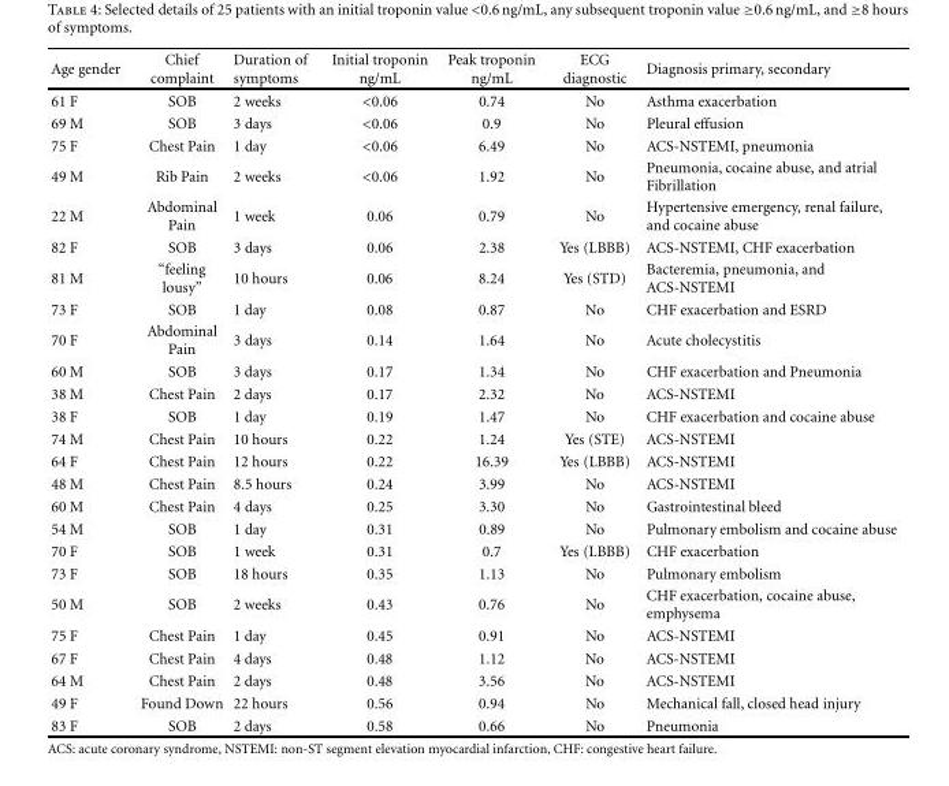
<table><thead><tr><td>Age gender</td><td>Chief complaint</td><td>Duration of symptoms</td><td>Initial troponin ng/mL</td><td>Peak troponin ng/mL</td><td>ECG diagnostic</td><td>Diagnosis primary, secondary</td></tr></thead><tbody><tr><td>61 F</td><td>SOB</td><td>2 weeks</td><td>&lt;0.06</td><td>0.74</td><td>No</td><td>Asthma exacerbation</td></tr><tr><td>69 M</td><td>SOB</td><td>3 days</td><td>&lt;0.06</td><td>0.9</td><td>No</td><td>Pleural effusion</td></tr><tr><td>75 F</td><td>Chest Pain</td><td>1 day</td><td>&lt;0.06</td><td>6.49</td><td>No</td><td>ACS-NSTEMI, pneumonia</td></tr><tr><td>49 M</td><td>Rib Pain</td><td>2 weeks</td><td>&lt;0.06</td><td>1.92</td><td>No</td><td>Pneumonia, cocaine abuse, and atrial Fibrillation</td></tr><tr><td>22 M</td><td>Abdominal Pain</td><td>1 week</td><td>0.06</td><td>0.79</td><td>No</td><td>Hypertensive emergency, renal failure, and cocaine abuse</td></tr><tr><td>82 F</td><td>SOB</td><td>3 days</td><td>0.06</td><td>2.38</td><td>Yes (LBBB)</td><td>ACS-NSTEMI, CHF exacerbation</td></tr><tr><td>81 M</td><td>“feeling lousy”</td><td>10 hours</td><td>0.06</td><td>8.24</td><td>Yes (STD)</td><td>Bacteremia, pneumonia, and ACS-NSTEMI</td></tr><tr><td>73 F</td><td>SOB</td><td>1 day</td><td>0.08</td><td>0.87</td><td>No</td><td>CHF exacerbation and ESRD</td></tr><tr><td>70 F</td><td>Abdominal Pain</td><td>3 days</td><td>0.14</td><td>1.64</td><td>No</td><td>Acute cholecystitis</td></tr><tr><td>60 M</td><td>SOB</td><td>3 days</td><td>0.17</td><td>1.34</td><td>No</td><td>CHF exacerbation and Pneumonia</td></tr><tr><td>38 M</td><td>Chest Pain</td><td>2 days</td><td>0.17</td><td>2.32</td><td>No</td><td>ACS-NSTEMI</td></tr><tr><td>38 F</td><td>SOB</td><td>1 day</td><td>0.19</td><td>1.47</td><td>No</td><td>CHF exacerbation and cocaine abuse</td></tr><tr><td>74 M</td><td>Chest Pain</td><td>10 hours</td><td>0.22</td><td>1.24</td><td>Yes (STE)</td><td>ACS-NSTEMI</td></tr><tr><td>64 F</td><td>Chest Pain</td><td>12 hours</td><td>0.22</td><td>16.39</td><td>Yes (LBBB)</td><td>ACS-NSTEMI</td></tr><tr><td>48 M</td><td>Chest Pain</td><td>8.5 hours</td><td>0.24</td><td>3.99</td><td>No</td><td>ACS-NSTEMI</td></tr><tr><td>60 M</td><td>Chest Pain</td><td>4 days</td><td>0.25</td><td>3.30</td><td>No</td><td>Gastrointestinal bleed</td></tr><tr><td>54 M</td><td>SOB</td><td>1 day</td><td>0.31</td><td>0.89</td><td>No</td><td>Pulmonary embolism and cocaine abuse</td></tr><tr><td>70 F</td><td>SOB</td><td>1 week</td><td>0.31</td><td>0.7</td><td>Yes (LBBB)</td><td>CHF exacerbation</td></tr><tr><td>73 F</td><td>SOB</td><td>18 hours</td><td>0.35</td><td>1.13</td><td>No</td><td>Pulmonary embolism</td></tr><tr><td>50 M</td><td>SOB</td><td>2 weeks</td><td>0.43</td><td>0.76</td><td>No</td><td>CHF exacerbation, cocaine abuse, emphysema</td></tr><tr><td>75 F</td><td>Chest Pain</td><td>1 day</td><td>0.45</td><td>0.91</td><td>No</td><td>ACS-NSTEMI</td></tr><tr><td>67 F</td><td>Chest Pain</td><td>4 days</td><td>0.48</td><td>1.12</td><td>No</td><td>ACS-NSTEMI</td></tr><tr><td>64 M</td><td>Chest Pain</td><td>2 days</td><td>0.48</td><td>3.56</td><td>No</td><td>ACS-NSTEMI</td></tr><tr><td>49 F</td><td>Found Down</td><td>22 hours</td><td>0.56</td><td>0.94</td><td>No</td><td>Mechanical fall, closed head injury</td></tr><tr><td>83 F</td><td>SOB</td><td>2 days</td><td>0.58</td><td>0.66</td><td>No</td><td>Pneumonia</td></tr></tbody></table>